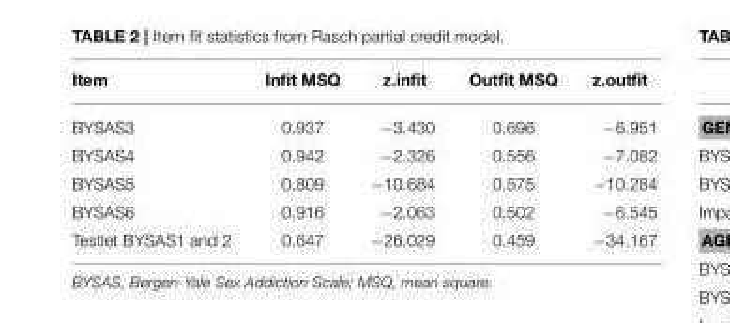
<table><thead><tr><td>Item</td><td>Infit MSQ</td><td>z.infit</td><td>Outfit MSQ</td><td>z.outfit</td></tr></thead><tbody><tr><td>BYSAS3</td><td>0.937</td><td>−3.430</td><td>0.696</td><td>−6.951</td></tr><tr><td>BYSAS4</td><td>0.942</td><td>−2.326</td><td>0.556</td><td>−7.082</td></tr><tr><td>BYSAS5</td><td>0.809</td><td>−10.684</td><td>0.575</td><td>−10.284</td></tr><tr><td>BYSAS6</td><td>0.916</td><td>−2.063</td><td>0.502</td><td>−6.545</td></tr><tr><td>Testlet BYSAS1 and 2</td><td>0.647</td><td>−26.029</td><td>0.459</td><td>−34.167</td></tr></tbody></table>